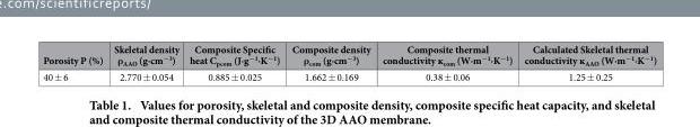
<table><thead><tr><td>Porosity P (%)</td><td>Skeletal density ρ<sub>AAO</sub> (g·cm<sup>−3</sup>)</td><td>Composite Specific heat C<sub>pcom</sub> (J·g<sup>−1</sup>·K<sup>−1</sup>)</td><td>Composite density ρ<sub>com</sub> (g·cm<sup>−3</sup>)</td><td>Composite thermal conductivity ĸ<sub>com</sub> (W·m<sup>−1</sup>·K<sup>−1</sup>)</td><td>Calculated Skeletal thermal conductivity ĸ<sub>AAO</sub> (W·m<sup>−1</sup>·K<sup>−1</sup>)</td></tr></thead><tbody><tr><td>40 ± 6</td><td>2.770 ± 0.054</td><td>0.885 ± 0.025</td><td>1.662 ± 0.169</td><td>0.38 ± 0.06</td><td>1.25 ± 0.25</td></tr></tbody></table>